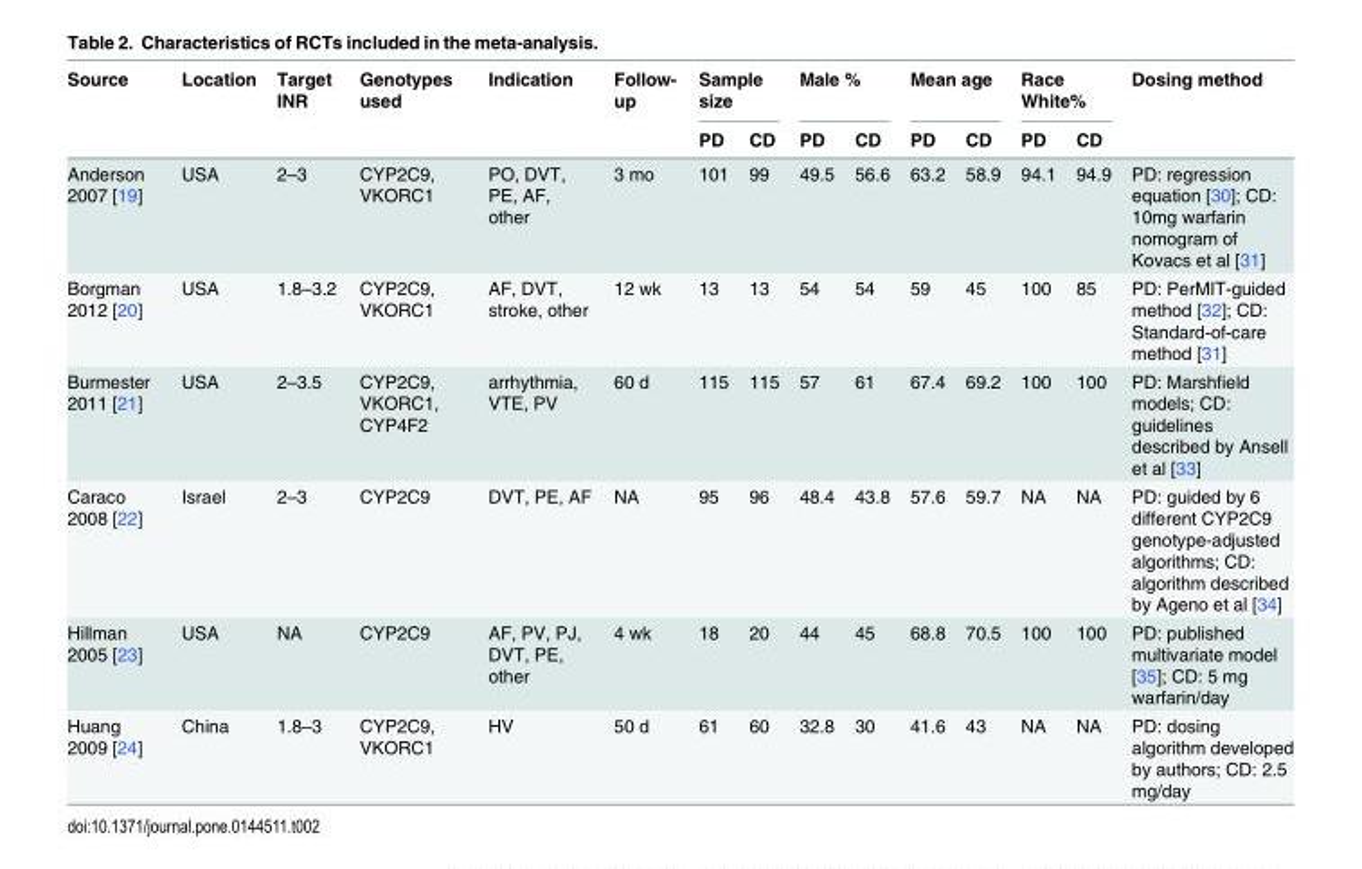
<table><thead><tr><td rowspan="2">Source</td><td rowspan="2">Location</td><td rowspan="2">Target INR</td><td rowspan="2">Genotypes used</td><td rowspan="2">Indication</td><td rowspan="2">Follow- up</td><td colspan="2">Sample size</td><td colspan="2">Male %</td><td colspan="2">Mean age</td><td colspan="2">Race White%</td><td rowspan="2">Dosing method</td></tr><tr><td>PD</td><td>CD</td><td>PD</td><td>CD</td><td>PD</td><td>CD</td><td>PD</td><td>CD</td></tr></thead><tbody><tr><td>Anderson 2007 [19]</td><td>USA</td><td>2–3</td><td>CYP2C9, VKORC1</td><td>PO, DVT, PE, AF, other</td><td>3 mo</td><td>101</td><td>99</td><td>49.5</td><td>56.6</td><td>63.2</td><td>58.9</td><td>94.1</td><td>94.9</td><td>PD: regression equation [30]; CD: 10mg warfarin nomogram of Kovacs et al [31]</td></tr><tr><td>Borgman 2012 [20]</td><td>USA</td><td>1.8–3.2</td><td>CYP2C9, VKORC1</td><td>AF, DVT, stroke, other</td><td>12 wk</td><td>13</td><td>13</td><td>54</td><td>54</td><td>59</td><td>45</td><td>100</td><td>85</td><td>PD: PerMIT-guided method [32]; CD: Standard-of-care method [31]</td></tr><tr><td>Burmester 2011 [21]</td><td>USA</td><td>2–3.5</td><td>CYP2C9, VKORC1, CYP4F2</td><td>arrhythmia, VTE, PV</td><td>60 d</td><td>115</td><td>115</td><td>57</td><td>61</td><td>67.4</td><td>69.2</td><td>100</td><td>100</td><td>PD: Marshfield models; CD: guidelines described by Ansell et al [33]</td></tr><tr><td>Caraco 2008 [22]</td><td>Israel</td><td>2–3</td><td>CYP2C9</td><td>DVT, PE, AF</td><td>NA</td><td>95</td><td>96</td><td>48.4</td><td>43.8</td><td>57.6</td><td>59.7</td><td>NA</td><td>NA</td><td>PD: guided by 6 different CYP2C9 genotype-adjusted algorithms; CD: algorithm described by Ageno et al [34]</td></tr><tr><td>Hillman 2005 [23]</td><td>USA</td><td>NA</td><td>CYP2C9</td><td>AF, PV, PJ, DVT, PE, other</td><td>4 wk</td><td>18</td><td>20</td><td>44</td><td>45</td><td>68.8</td><td>70.5</td><td>100</td><td>100</td><td>PD: published multivariate model [35]; CD: 5 mg warfarin/day</td></tr><tr><td>Huang 2009 [24]</td><td>China</td><td>1.8–3</td><td>CYP2C9, VKORC1</td><td>HV</td><td>50 d</td><td>61</td><td>60</td><td>32.8</td><td>30</td><td>41.6</td><td>43</td><td>NA</td><td>NA</td><td>PD: dosing algorithm developed by authors; CD: 2.5 mg/day</td></tr></tbody></table>